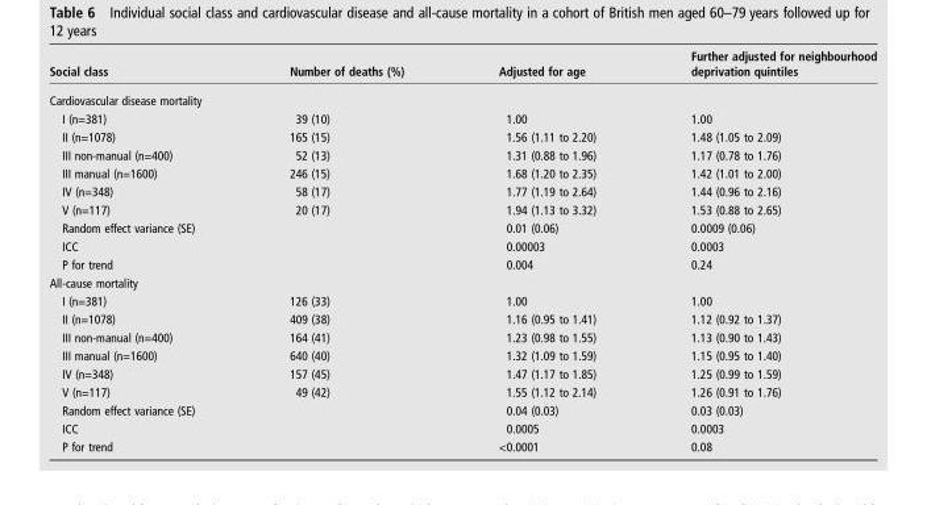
<table><thead><tr><td>Social class</td><td>Number of deaths (%)</td><td>Adjusted for age</td><td>Further adjusted for neighbourhood deprivation quintiles</td></tr></thead><tbody><tr><td colspan="4">Cardiovascular disease mortality</td></tr><tr><td>I (n=381)</td><td>39 (10)</td><td>1.00</td><td>1.00</td></tr><tr><td>II (n=1078)</td><td>165 (15)</td><td>1.56 (1.11 to 2.20)</td><td>1.48 (1.05 to 2.09)</td></tr><tr><td>III non-manual (n=400)</td><td>52 (13)</td><td>1.31 (0.88 to 1.96)</td><td>1.17 (0.78 to 1.76)</td></tr><tr><td>III manual (n=1600)</td><td>246 (15)</td><td>1.68 (1.20 to 2.35)</td><td>1.42 (1.01 to 2.00)</td></tr><tr><td>IV (n=348)</td><td>58 (17)</td><td>1.77 (1.19 to 2.64)</td><td>1.44 (0.96 to 2.16)</td></tr><tr><td>V (n=117)</td><td>20 (17)</td><td>1.94 (1.13 to 3.32)</td><td>1.53 (0.88 to 2.65)</td></tr><tr><td>Random effect variance (SE)</td><td></td><td>0.01 (0.06)</td><td>0.0009 (0.06)</td></tr><tr><td>ICC</td><td></td><td>0.00003</td><td>0.0003</td></tr><tr><td>P for trend</td><td></td><td>0.004</td><td>0.24</td></tr><tr><td colspan="4">All-cause mortality</td></tr><tr><td>I (n=381)</td><td>126 (33)</td><td>1.00</td><td>1.00</td></tr><tr><td>II (n=1078)</td><td>409 (38)</td><td>1.16 (0.95 to 1.41)</td><td>1.12 (0.92 to 1.37)</td></tr><tr><td>III non-manual (n=400)</td><td>164 (41)</td><td>1.23 (0.98 to 1.55)</td><td>1.13 (0.90 to 1.43)</td></tr><tr><td>III manual (n=1600)</td><td>640 (40)</td><td>1.32 (1.09 to 1.59)</td><td>1.15 (0.95 to 1.40)</td></tr><tr><td>IV (n=348)</td><td>157 (45)</td><td>1.47 (1.17 to 1.85)</td><td>1.25 (0.99 to 1.59)</td></tr><tr><td>V (n=117)</td><td>49 (42)</td><td>1.55 (1.12 to 2.14)</td><td>1.26 (0.91 to 1.76)</td></tr><tr><td>Random effect variance (SE)</td><td></td><td>0.04 (0.03)</td><td>0.03 (0.03)</td></tr><tr><td>ICC</td><td></td><td>0.0005</td><td>0.0003</td></tr><tr><td>P for trend</td><td></td><td>&lt;0.0001</td><td>0.08</td></tr></tbody></table>